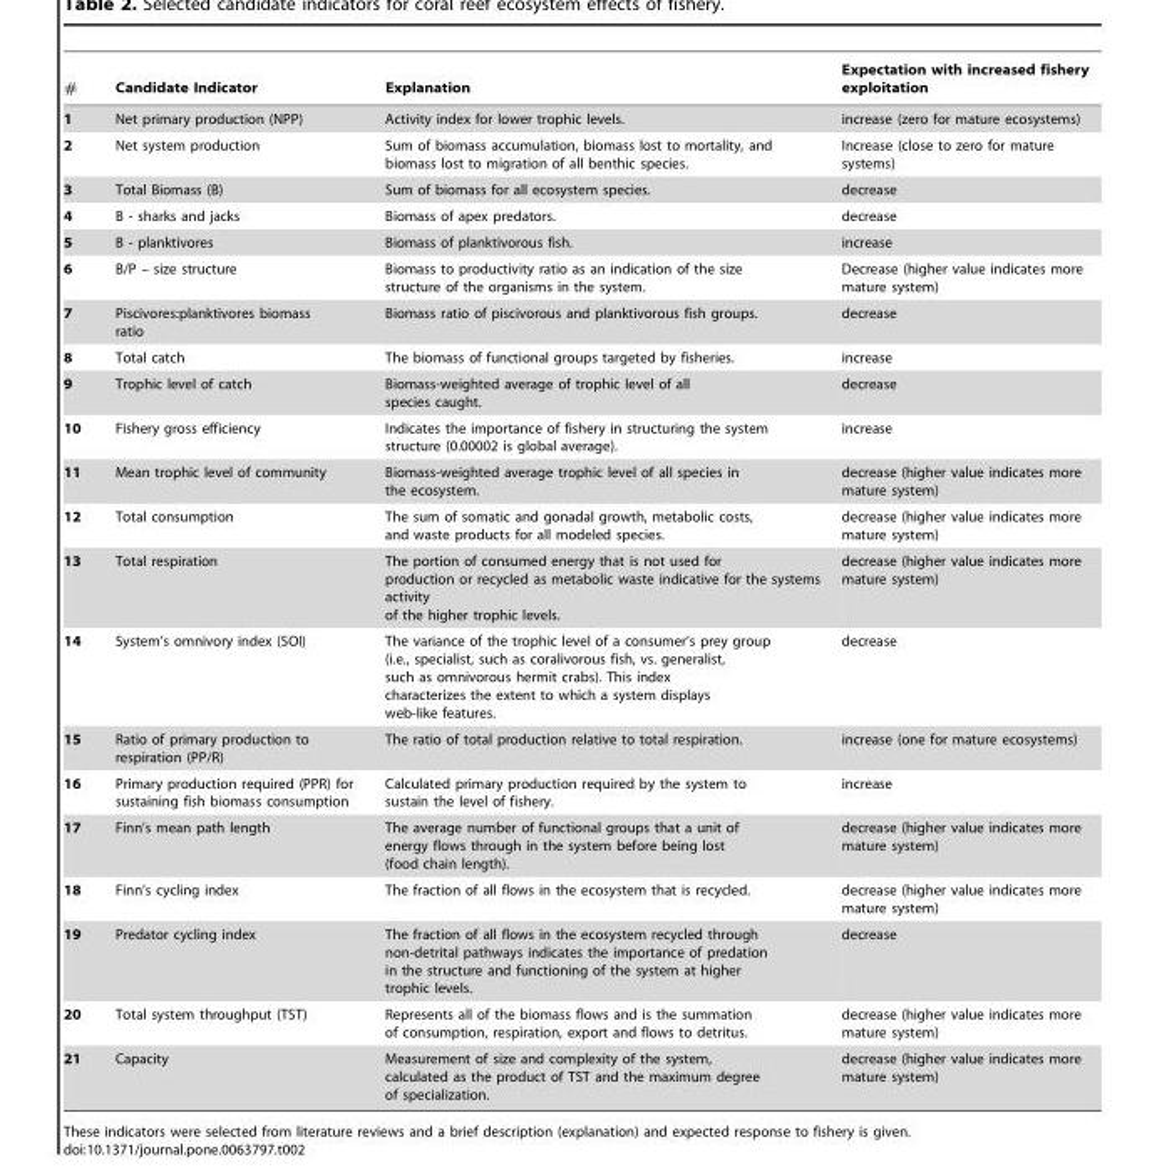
<table><thead><tr><td>#</td><td>Candidate Indicator</td><td>Explanation</td><td>Expectation with increased fishery exploitation</td></tr></thead><tbody><tr><td>1</td><td>Net primary production (NPP)</td><td>Activity index for lower trophic levels.</td><td>increase (zero for mature ecosystems)</td></tr><tr><td>2</td><td>Net system production</td><td>Sum of biomass accumulation, biomass lost to mortality, and biomass lost to migration of all benthic species.</td><td>Increase (close to zero for mature systems)</td></tr><tr><td>3</td><td>Total Biomass (B)</td><td>Sum of biomass for all ecosystem species.</td><td>decrease</td></tr><tr><td>4</td><td>B - sharks and jacks</td><td>Biomass of apex predators.</td><td>decrease</td></tr><tr><td>5</td><td>B - planktivores</td><td>Biomass of planktivorous fish.</td><td>increase</td></tr><tr><td>6</td><td>B/P – size structure</td><td>Biomass to productivity ratio as an indication of the size structure of the organisms in the system.</td><td>Decrease (higher value indicates more mature system)</td></tr><tr><td>7</td><td>Piscivores:planktivores biomass ratio</td><td>Biomass ratio of piscivorous and planktivorous fish groups.</td><td>decrease</td></tr><tr><td>8</td><td>Total catch</td><td>The biomass of functional groups targeted by fisheries.</td><td>increase</td></tr><tr><td>9</td><td>Trophic level of catch</td><td>Biomass-weighted average of trophic level of all species caught.</td><td>decrease</td></tr><tr><td>10</td><td>Fishery gross efficiency</td><td>Indicates the importance of fishery in structuring the system structure (0.00002 is global average).</td><td>increase</td></tr><tr><td>11</td><td>Mean trophic level of community</td><td>Biomass-weighted average trophic level of all species in the ecosystem.</td><td>decrease (higher value indicates more mature system)</td></tr><tr><td>12</td><td>Total consumption</td><td>The sum of somatic and gonadal growth, metabolic costs, and waste products for all modeled species.</td><td>decrease (higher value indicates more mature system)</td></tr><tr><td>13</td><td>Total respiration</td><td>The portion of consumed energy that is not used for production or recycled as metabolic waste indicative for the systems activity of the higher trophic levels.</td><td>decrease (higher value indicates more mature system)</td></tr><tr><td>14</td><td>System’s omnivory index (SOI)</td><td>The variance of the trophic level of a consumer’s prey group (i.e., specialist, such as coralivorous fish, vs. generalist, such as omnivorous hermit crabs). This index characterizes the extent to which a system displays web-like features.</td><td>decrease</td></tr><tr><td>15</td><td>Ratio of primary production to respiration (PP/R)</td><td>The ratio of total production relative to total respiration.</td><td>increase (one for mature ecosystems)</td></tr><tr><td>16</td><td>Primary production required (PPR) for sustaining fish biomass consumption</td><td>Calculated primary production required by the system to sustain the level of fishery.</td><td>increase</td></tr><tr><td>17</td><td>Finn’s mean path length</td><td>The average number of functional groups that a unit of energy flows through in the system before being lost (food chain length).</td><td>decrease (higher value indicates more mature system)</td></tr><tr><td>18</td><td>Finn’s cycling index</td><td>The fraction of all flows in the ecosystem that is recycled.</td><td>decrease (higher value indicates more mature system)</td></tr><tr><td>19</td><td>Predator cycling index</td><td>The fraction of all flows in the ecosystem recycled through non-detrital pathways indicates the importance of predation in the structure and functioning of the system at higher trophic levels.</td><td>decrease</td></tr><tr><td>20</td><td>Total system throughput (TST)</td><td>Represents all of the biomass flows and is the summation of consumption, respiration, export and flows to detritus.</td><td>decrease (higher value indicates more mature system)</td></tr><tr><td>21</td><td>Capacity</td><td>Measurement of size and complexity of the system, calculated as the product of TST and the maximum degree of specialization.</td><td>decrease (higher value indicates more mature system)</td></tr></tbody></table>